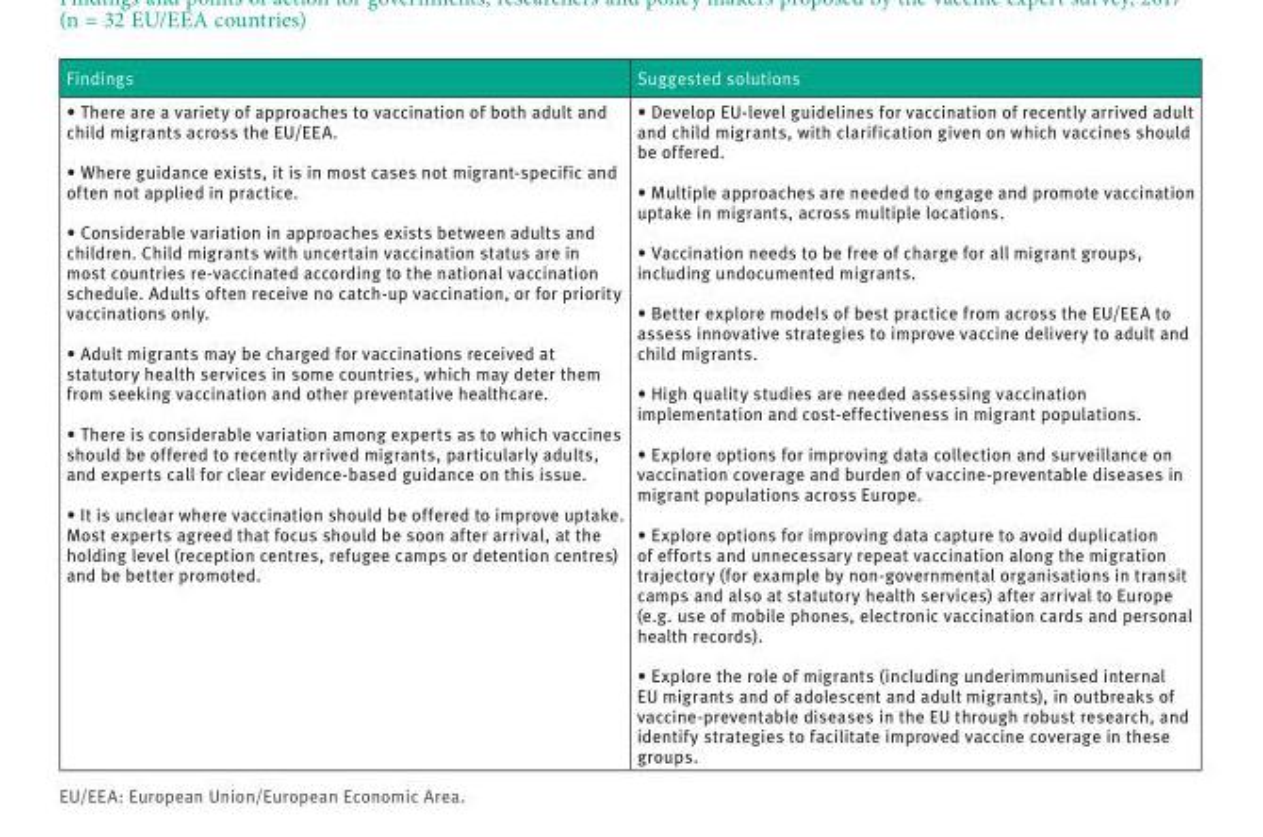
<table><thead><tr><td>Findings</td><td>Suggested solutions</td></tr></thead><tbody><tr><td>• There are a variety of approaches to vaccination of both adult and child migrants across the EU/EEA. • Where guidance exists, it is in most cases not migrant-specific and often not applied in practice. • Considerable variation in approaches exists between adults and children. Child migrants with uncertain vaccination status are in most countries re-vaccinated according to the national vaccination schedule. Adults often receive no catch-up vaccination, or for priority vaccinations only. • Adult migrants may be charged for vaccinations received at statutory health services in some countries, which may deter them from seeking vaccination and other preventative healthcare. • There is considerable variation among experts as to which vaccines should be offered to recently arrived migrants, particularly adults, and experts call for clear evidence-based guidance on this issue. • It is unclear where vaccination should be offered to improve uptake. Most experts agreed that focus should be soon after arrival, at the holding level (reception centres, refugee camps or detention centres) and be better promoted.</td><td>• Develop EU-level guidelines for vaccination of recently arrived adult and child migrants, with clarification given on which vaccines should be offered. • Multiple approaches are needed to engage and promote vaccination uptake in migrants, across multiple locations. • Vaccination needs to be free of charge for all migrant groups, including undocumented migrants. • Better explore models of best practice from across the EU/EEA to assess innovative strategies to improve vaccine delivery to adult and child migrants. • High quality studies are needed assessing vaccination implementation and cost-effectiveness in migrant populations. • Explore options for improving data collection and surveillance on vaccination coverage and burden of vaccine-preventable diseases in migrant populations across Europe. • Explore options for improving data capture to avoid duplication of efforts and unnecessary repeat vaccination along the migration trajectory (for example by non-governmental organisations in transit camps and also at statutory health services) after arrival to Europe (e.g. use of mobile phones, electronic vaccination cards and personal health records). • Explore the role of migrants (including underimmunised internal EU migrants and of adolescent and adult migrants), in outbreaks of vaccine-preventable diseases in the EU through robust research, and identify strategies to facilitate improved vaccine coverage in these groups.</td></tr></tbody></table>